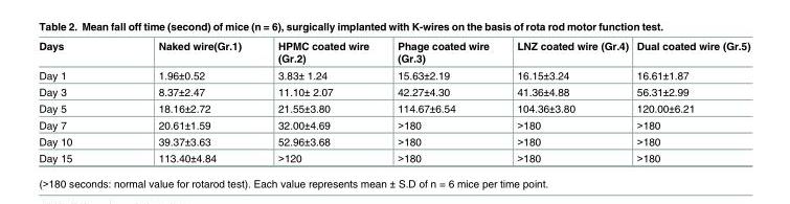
<table><thead><tr><td>Days</td><td>Naked wire(Gr.1)</td><td>HPMC coated wire (Gr.2)</td><td>Phage coated wire (Gr.3)</td><td>LNZ coated wire (Gr.4)</td><td>Dual coated wire (Gr.5)</td></tr></thead><tbody><tr><td>Day 1</td><td>1.96±0.52</td><td>3.83± 1.24</td><td>15.63±2.19</td><td>16.15±3.24</td><td>16.61±1.87</td></tr><tr><td>Day 3</td><td>8.37±2.47</td><td>11.10± 2.07</td><td>42.27±4.30</td><td>41.36±4.88</td><td>56.31±2.99</td></tr><tr><td>Day 5</td><td>18.16±2.72</td><td>21.55±3.80</td><td>114.67±6.54</td><td>104.36±3.80</td><td>120.00±6.21</td></tr><tr><td>Day 7</td><td>20.61±1.59</td><td>32.00±4.69</td><td>&gt;180</td><td>&gt;180</td><td>&gt;180</td></tr><tr><td>Day 10</td><td>39.37±3.63</td><td>52.96±3.68</td><td>&gt;180</td><td>&gt;180</td><td>&gt;180</td></tr><tr><td>Day 15</td><td>113.40±4.84</td><td>&gt;120</td><td>&gt;180</td><td>&gt;180</td><td>&gt;180</td></tr></tbody></table>